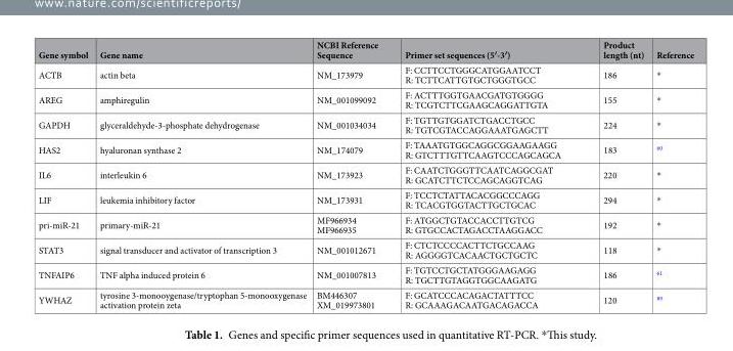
<table><thead><tr><td>Gene symbol</td><td>Gene name</td><td>NCBI Reference Sequence</td><td>Primer set sequences (5′-3′)</td><td>Product length (nt)</td><td>Reference</td></tr></thead><tbody><tr><td>ACTB</td><td>actin beta</td><td>NM_173979</td><td>F: CCTTCCTGGGCATGGAATCCT R: TCTTCATTGTGCTGGGTGCC</td><td>186</td><td>*</td></tr><tr><td>AREG</td><td>amphiregulin</td><td>NM_001099092</td><td>F: ACTTTGGTGAACGATGTGGGG R: TCGTCTTCGAAGCAGGATTGTA</td><td>155</td><td>*</td></tr><tr><td>GAPDH</td><td>glyceraldehyde-3-phosphate dehydrogenase</td><td>NM_001034034</td><td>F: TGTTGTGGATCTGACCTGCC R: TGTCGTACCAGGAAATGAGCTT</td><td>224</td><td>*</td></tr><tr><td>HAS2</td><td>hyaluronan synthase 2</td><td>NM_174079</td><td>F: TAAATGTGGCAGGCGGAAGAAGG R: GTCTTTGTTCAAGTCCCAGCAGCA</td><td>183</td><td><sup>60</sup></td></tr><tr><td>IL6</td><td>interleukin 6</td><td>NM_173923</td><td>F: CAATCTGGGTTCAATCAGGCGAT R: GCATCTTCTCCAGCAGGTCAG</td><td>220</td><td>*</td></tr><tr><td>LIF</td><td>leukemia inhibitory factor</td><td>NM_173931</td><td>F: TCCTCTATTACACGGCCCAGG R: TCACGTGGTACTTGCTGCAC</td><td>294</td><td>*</td></tr><tr><td>pri-miR-21</td><td>primary-miR-21</td><td>MF966934 MF966935</td><td>F: ATGGCTGTACCACCTTGTCG R: GTGCCACTAGACCTAAGGACC</td><td>192</td><td>*</td></tr><tr><td>STAT3</td><td>signal transducer and activator of transcription 3</td><td>NM_001012671</td><td>F: CTCTCCCCACTTCTGCCAAG R: AGGGGTCACAACTGCTGCTC</td><td>118</td><td>*</td></tr><tr><td>TNFAIP6</td><td>TNF alpha induced protein 6</td><td>NM_001007813</td><td>F: TGTCCTGCTATGGGAAGAGG R: TGCTTGTAGGTGGCAAGATG</td><td>186</td><td><sup>61</sup></td></tr><tr><td>YWHAZ</td><td>tyrosine 3-monooygenase/tryptophan 5-monooxygenase activation protein zeta</td><td>BM446307 XM_019973801</td><td>F: GCATCCCACAGACTATTTCC R: GCAAAGACAATGACAGACCA</td><td>120</td><td><sup>89</sup></td></tr></tbody></table>